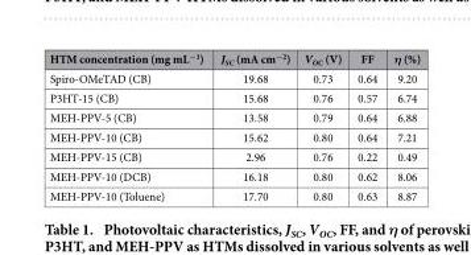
<table><thead><tr><td>HTM concentration (mg mL<sup>−1</sup>)</td><td>J<sub>SC</sub> (mA cm<sup>−2</sup>)</td><td>V<sub>OC</sub> (V)</td><td>FF</td><td>η (%)</td></tr></thead><tbody><tr><td>Spiro-OMeTAD (CB)</td><td>19.68</td><td>0.73</td><td>0.64</td><td>9.20</td></tr><tr><td>P3HT-15 (CB)</td><td>15.68</td><td>0.76</td><td>0.57</td><td>6.74</td></tr><tr><td>MEH-PPV-5 (CB)</td><td>13.58</td><td>0.79</td><td>0.64</td><td>6.88</td></tr><tr><td>MEH-PPV-10 (CB)</td><td>15.62</td><td>0.80</td><td>0.64</td><td>7.21</td></tr><tr><td>MEH-PPV-15 (CB)</td><td>2.96</td><td>0.76</td><td>0.22</td><td>0.49</td></tr><tr><td>MEH-PPV-10 (DCB)</td><td>16.18</td><td>0.80</td><td>0.62</td><td>8.06</td></tr><tr><td>MEH-PPV-10 (Toluene)</td><td>17.70</td><td>0.80</td><td>0.63</td><td>8.87</td></tr></tbody></table>